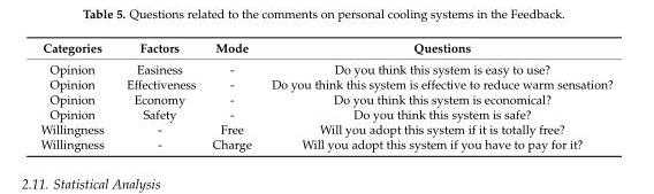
<table><thead><tr><td>Categories</td><td>Factors</td><td>Mode</td><td>Questions</td></tr></thead><tbody><tr><td>Opinion</td><td>Easiness</td><td>-</td><td>Do you think this system is easy to use?</td></tr><tr><td>Opinion</td><td>Effectiveness</td><td>-</td><td>Do you think this system is effective to reduce warm sensation?</td></tr><tr><td>Opinion</td><td>Economy</td><td>-</td><td>Do you think this system is economical?</td></tr><tr><td>Opinion</td><td>Safety</td><td>-</td><td>Do you think this system is safe?</td></tr><tr><td>Willingness</td><td>-</td><td>Free</td><td>Will you adopt this system if it is totally free?</td></tr><tr><td>Willingness</td><td>-</td><td>Charge</td><td>Will you adopt this system if you have to pay for it?</td></tr></tbody></table>